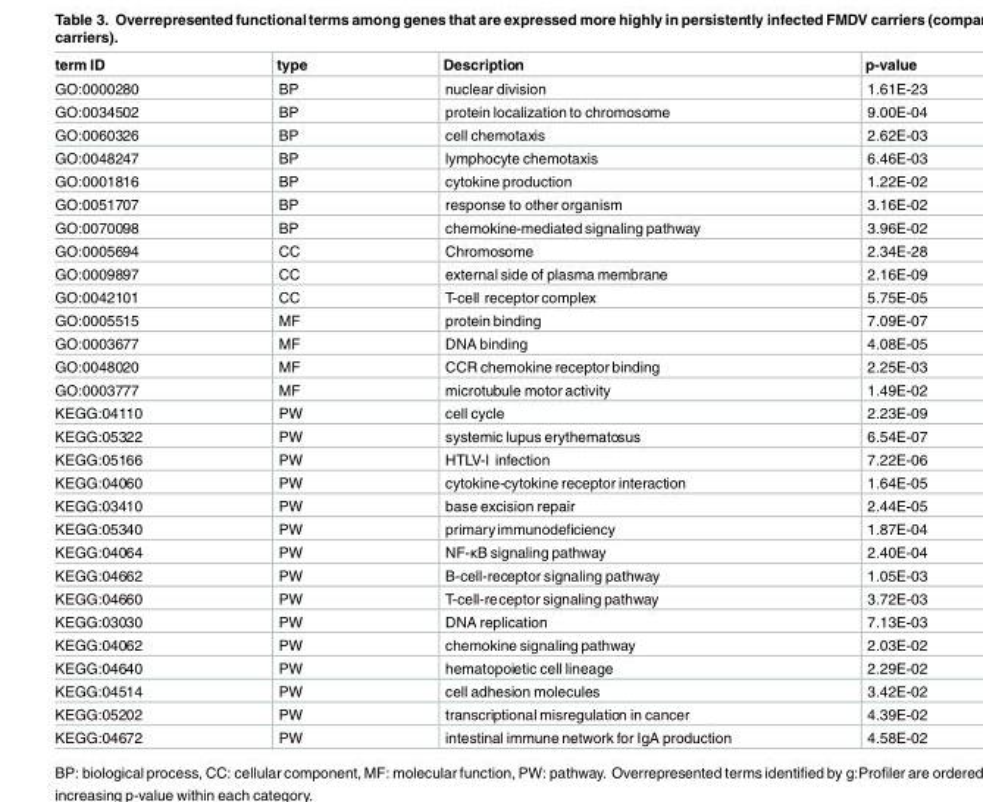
<table><thead><tr><td>term ID</td><td>type</td><td>Description</td><td>p-value</td></tr></thead><tbody><tr><td>GO:0000280</td><td>BP</td><td>nuclear division</td><td>1.61E-23</td></tr><tr><td>GO:0034502</td><td>BP</td><td>protein localization to chromosome</td><td>9.00E-04</td></tr><tr><td>GO:0060326</td><td>BP</td><td>cell chemotaxis</td><td>2.62E-03</td></tr><tr><td>GO:0048247</td><td>BP</td><td>lymphocyte chemotaxis</td><td>6.46E-03</td></tr><tr><td>GO:0001816</td><td>BP</td><td>cytokine production</td><td>1.22E-02</td></tr><tr><td>GO:0051707</td><td>BP</td><td>response to other organism</td><td>3.16E-02</td></tr><tr><td>GO:0070098</td><td>BP</td><td>chemokine-mediated signaling pathway</td><td>3.96E-02</td></tr><tr><td>GO:0005694</td><td>CC</td><td>Chromosome</td><td>2.34E-28</td></tr><tr><td>GO:0009897</td><td>CC</td><td>external side of plasma membrane</td><td>2.16E-09</td></tr><tr><td>GO:0042101</td><td>CC</td><td>T-cell receptor complex</td><td>5.75E-05</td></tr><tr><td>GO:0005515</td><td>MF</td><td>protein binding</td><td>7.09E-07</td></tr><tr><td>GO:0003677</td><td>MF</td><td>DNA binding</td><td>4.08E-05</td></tr><tr><td>GO:0048020</td><td>MF</td><td>CCR chemokine receptor binding</td><td>2.25E-03</td></tr><tr><td>GO:0003777</td><td>MF</td><td>microtubule motor activity</td><td>1.49E-02</td></tr><tr><td>KEGG:04110</td><td>PW</td><td>cell cycle</td><td>2.23E-09</td></tr><tr><td>KEGG:05322</td><td>PW</td><td>systemic lupus erythematosus</td><td>6.54E-07</td></tr><tr><td>KEGG:05166</td><td>PW</td><td>HTLV-I infection</td><td>7.22E-06</td></tr><tr><td>KEGG:04060</td><td>PW</td><td>cytokine-cytokine receptor interaction</td><td>1.64E-05</td></tr><tr><td>KEGG:03410</td><td>PW</td><td>base excision repair</td><td>2.44E-05</td></tr><tr><td>KEGG:05340</td><td>PW</td><td>primaryimmunodeficiency</td><td>1.87E-04</td></tr><tr><td>KEGG:04064</td><td>PW</td><td>NF-κB signaling pathway</td><td>2.40E-04</td></tr><tr><td>KEGG:04662</td><td>PW</td><td>B-cell-receptor signaling pathway</td><td>1.05E-03</td></tr><tr><td>KEGG:04660</td><td>PW</td><td>T-cell-receptor signaling pathway</td><td>3.72E-03</td></tr><tr><td>KEGG:03030</td><td>PW</td><td>DNA replication</td><td>7.13E-03</td></tr><tr><td>KEGG:04062</td><td>PW</td><td>chemokine signaling pathway</td><td>2.03E-02</td></tr><tr><td>KEGG:04640</td><td>PW</td><td>hematopoietic cell lineage</td><td>2.29E-02</td></tr><tr><td>KEGG:04514</td><td>PW</td><td>cell adhesion molecules</td><td>3.42E-02</td></tr><tr><td>KEGG:05202</td><td>PW</td><td>transcriptional misregulation in cancer</td><td>4.39E-02</td></tr><tr><td>KEGG:04672</td><td>PW</td><td>intestinal immune network for IgA production</td><td>4.58E-02</td></tr></tbody></table>